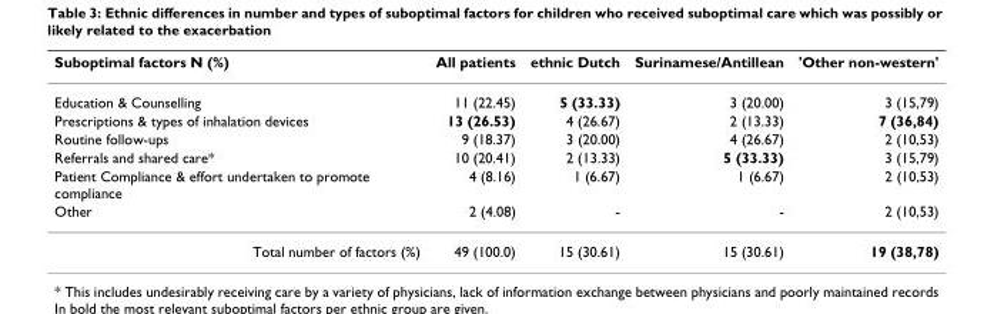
<table><thead><tr><td>Suboptimal factors N (%)</td><td>All patients</td><td>ethnic Dutch</td><td>Surinamese/Antillean</td><td>&#x27;Other non-western&#x27;</td></tr></thead><tbody><tr><td>Education &amp; Counselling</td><td>11 (22.45)</td><td>5 (33.33)</td><td>3 (20.00)</td><td>3 (15,79)</td></tr><tr><td>Prescriptions &amp; types of inhalation devices</td><td>13 (26.53)</td><td>4 (26.67)</td><td>2 (13.33)</td><td>7 (36,84)</td></tr><tr><td>Routine follow-ups</td><td>9 (18.37)</td><td>3 (20.00)</td><td>4 (26.67)</td><td>2 (10,53)</td></tr><tr><td>Referrals and shared care*</td><td>10 (20.41)</td><td>2 (13.33)</td><td>5 (33.33)</td><td>3 (15,79)</td></tr><tr><td>Patient Compliance &amp; effort undertaken to promote compliance</td><td>4 (8.16)</td><td>1 (6.67)</td><td>1 (6.67)</td><td>2 (10,53)</td></tr><tr><td>Other</td><td>2 (4.08)</td><td>-</td><td>-</td><td>2 (10,53)</td></tr><tr><td>Total number of factors (%)</td><td>49 (100.0)</td><td>15 (30.61)</td><td>15 (30.61)</td><td>19 (38,78)</td></tr></tbody></table>